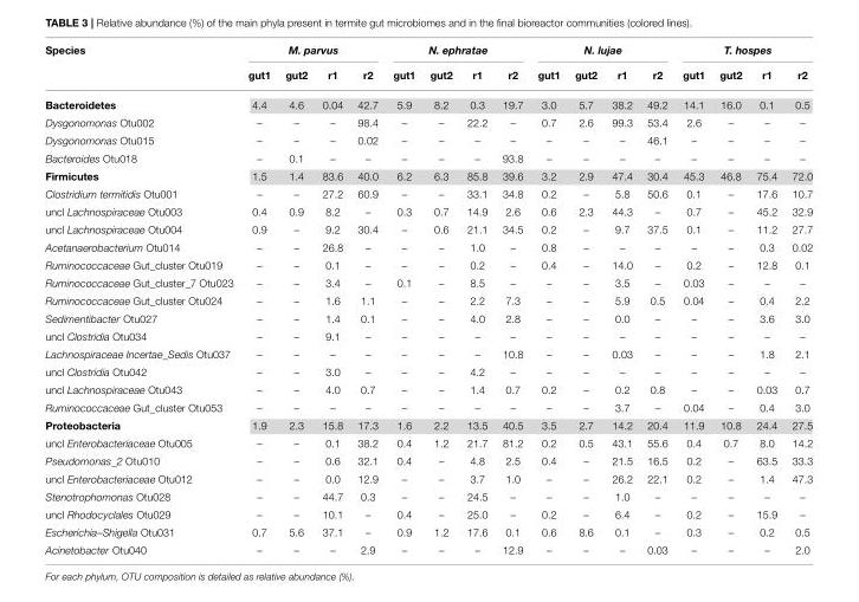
<table><thead><tr><td rowspan="2">Species</td><td colspan="4">M. parvus</td><td colspan="4">N. ephratae</td><td colspan="4">N. lujae</td><td colspan="4">T. hospes</td></tr><tr><td>gut1</td><td>gut2</td><td>r1</td><td>r2</td><td>gut1</td><td>gut2</td><td>r1</td><td>r2</td><td>gut1</td><td>gut2</td><td>r1</td><td>r2</td><td>gut1</td><td>gut2</td><td>r1</td><td>r2</td></tr></thead><tbody><tr><td>Bacteroidetes</td><td>4.4</td><td>4.6</td><td>0.04</td><td>42.7</td><td>5.9</td><td>8.2</td><td>0.3</td><td>19.7</td><td>3.0</td><td>5.7</td><td>38.2</td><td>49.2</td><td>14.1</td><td>16.0</td><td>0.1</td><td>0.5</td></tr><tr><td>Dysgonomonas Otu002</td><td>–</td><td>–</td><td>–</td><td>98.4</td><td>–</td><td>–</td><td>22.2</td><td>–</td><td>0.7</td><td>2.6</td><td>99.3</td><td>53.4</td><td>2.6</td><td>–</td><td>–</td><td>–</td></tr><tr><td>Dysgonomonas Otu015</td><td>–</td><td>–</td><td>–</td><td>0.02</td><td>–</td><td>–</td><td>–</td><td>–</td><td>–</td><td>–</td><td>–</td><td>46.1</td><td>–</td><td>–</td><td>–</td><td>–</td></tr><tr><td>Bacteroides Otu018</td><td>–</td><td>0.1</td><td>–</td><td>–</td><td>–</td><td>–</td><td>–</td><td>93.8</td><td>–</td><td>–</td><td>–</td><td>–</td><td>–</td><td>–</td><td>–</td><td>–</td></tr><tr><td>Firmicutes</td><td>1.5</td><td>1.4</td><td>83.6</td><td>40.0</td><td>6.2</td><td>6.3</td><td>85.8</td><td>39.6</td><td>3.2</td><td>2.9</td><td>47.4</td><td>30.4</td><td>45.3</td><td>46.8</td><td>75.4</td><td>72.0</td></tr><tr><td>Clostridium termitidis Otu001</td><td>–</td><td>–</td><td>27.2</td><td>60.9</td><td>–</td><td>–</td><td>33.1</td><td>34.8</td><td>0.2</td><td>–</td><td>5.8</td><td>50.6</td><td>0.1</td><td>–</td><td>17.6</td><td>10.7</td></tr><tr><td>uncl Lachnospiraceae Otu003</td><td>0.4</td><td>0.9</td><td>8.2</td><td>–</td><td>0.3</td><td>0.7</td><td>14.9</td><td>2.6</td><td>0.6</td><td>2.3</td><td>44.3</td><td>–</td><td>0.7</td><td>–</td><td>45.2</td><td>32.9</td></tr><tr><td>uncl Lachnospiraceae Otu004</td><td>0.9</td><td>–</td><td>9.2</td><td>30.4</td><td>–</td><td>0.6</td><td>21.1</td><td>34.5</td><td>0.2</td><td>–</td><td>9.7</td><td>37.5</td><td>0.1</td><td>–</td><td>11.2</td><td>27.7</td></tr><tr><td>Acetanaerobacterium Otu014</td><td>–</td><td>–</td><td>26.8</td><td>–</td><td>–</td><td>–</td><td>1.0</td><td>–</td><td>0.8</td><td>–</td><td>–</td><td>–</td><td>–</td><td>–</td><td>0.3</td><td>0.02</td></tr><tr><td>Ruminococcaceae Gut_cluster Otu019</td><td>–</td><td>–</td><td>0.1</td><td>–</td><td>–</td><td>–</td><td>0.2</td><td>–</td><td>0.4</td><td>–</td><td>14.0</td><td>–</td><td>0.2</td><td>–</td><td>12.8</td><td>0.1</td></tr><tr><td>Ruminococcaceae Gut_cluster_7 Otu023</td><td>–</td><td>–</td><td>3.4</td><td>–</td><td>0.1</td><td>–</td><td>8.5</td><td>–</td><td>–</td><td>–</td><td>3.5</td><td>–</td><td>0.03</td><td>–</td><td>–</td><td>–</td></tr><tr><td>Ruminococcaceae Gut_cluster Otu024</td><td>–</td><td>–</td><td>1.6</td><td>1.1</td><td>–</td><td>–</td><td>2.2</td><td>7.3</td><td>–</td><td>–</td><td>5.9</td><td>0.5</td><td>0.04</td><td>–</td><td>0.4</td><td>2.2</td></tr><tr><td>Sedimentibacter Otu027</td><td>–</td><td>–</td><td>1.4</td><td>0.1</td><td>–</td><td>–</td><td>4.0</td><td>2.8</td><td>–</td><td>–</td><td>0.0</td><td>–</td><td>–</td><td>–</td><td>3.6</td><td>3.0</td></tr><tr><td>uncl Clostridia Otu034</td><td>–</td><td>–</td><td>9.1</td><td>–</td><td>–</td><td>–</td><td>–</td><td>–</td><td>–</td><td>–</td><td>–</td><td>–</td><td>–</td><td>–</td><td>–</td><td>–</td></tr><tr><td>Lachnospiraceae Incertae_Sedis Otu037</td><td>–</td><td>–</td><td>–</td><td>–</td><td>–</td><td>–</td><td>–</td><td>10.8</td><td>–</td><td>–</td><td>0.03</td><td>–</td><td>–</td><td>–</td><td>1.8</td><td>2.1</td></tr><tr><td>uncl Clostridia Otu042</td><td>–</td><td>–</td><td>3.0</td><td>–</td><td>–</td><td>–</td><td>4.2</td><td>–</td><td>–</td><td>–</td><td>–</td><td>–</td><td>–</td><td>–</td><td>–</td><td>–</td></tr><tr><td>uncl Lachnospiraceae Otu043</td><td>–</td><td>–</td><td>4.0</td><td>0.7</td><td>–</td><td>–</td><td>1.4</td><td>0.7</td><td>0.2</td><td>–</td><td>0.2</td><td>0.8</td><td>–</td><td>–</td><td>0.03</td><td>0.7</td></tr><tr><td>Ruminococcaceae Gut_cluster Otu053</td><td>–</td><td>–</td><td>–</td><td>–</td><td>–</td><td>–</td><td>–</td><td>–</td><td>–</td><td>–</td><td>3.7</td><td>–</td><td>0.04</td><td>–</td><td>0.4</td><td>3.0</td></tr><tr><td>Proteobacteria</td><td>1.9</td><td>2.3</td><td>15.8</td><td>17.3</td><td>1.6</td><td>2.2</td><td>13.5</td><td>40.5</td><td>3.5</td><td>2.7</td><td>14.2</td><td>20.4</td><td>11.9</td><td>10.8</td><td>24.4</td><td>27.5</td></tr><tr><td>uncl Enterobacteriaceae Otu005</td><td>–</td><td>–</td><td>0.1</td><td>38.2</td><td>0.4</td><td>1.2</td><td>21.7</td><td>81.2</td><td>0.2</td><td>0.5</td><td>43.1</td><td>55.6</td><td>0.4</td><td>0.7</td><td>8.0</td><td>14.2</td></tr><tr><td>Pseudomonas_2 Otu010</td><td>–</td><td>–</td><td>0.6</td><td>32.1</td><td>0.4</td><td>–</td><td>4.8</td><td>2.5</td><td>0.4</td><td>–</td><td>21.5</td><td>16.5</td><td>0.2</td><td>–</td><td>63.5</td><td>33.3</td></tr><tr><td>uncl Enterobacteriaceae Otu012</td><td>–</td><td>–</td><td>0.0</td><td>12.9</td><td>–</td><td>–</td><td>3.7</td><td>1.0</td><td>–</td><td>–</td><td>26.2</td><td>22.1</td><td>0.2</td><td>–</td><td>1.4</td><td>47.3</td></tr><tr><td>Stenotrophomonas Otu028</td><td>–</td><td>–</td><td>44.7</td><td>0.3</td><td>–</td><td>–</td><td>24.5</td><td>–</td><td>–</td><td>–</td><td>1.0</td><td>–</td><td>–</td><td>–</td><td>–</td><td>–</td></tr><tr><td>uncl Rhodocyclales Otu029</td><td>–</td><td>–</td><td>10.1</td><td>–</td><td>0.4</td><td>–</td><td>25.0</td><td>–</td><td>0.2</td><td>–</td><td>6.4</td><td>–</td><td>0.2</td><td>–</td><td>15.9</td><td>–</td></tr><tr><td>Escherichia–Shigella Otu031</td><td>0.7</td><td>5.6</td><td>37.1</td><td>–</td><td>0.9</td><td>1.2</td><td>17.6</td><td>0.1</td><td>0.6</td><td>8.6</td><td>0.1</td><td>–</td><td>0.3</td><td>–</td><td>0.2</td><td>0.5</td></tr><tr><td>Acinetobacter Otu040</td><td>–</td><td>–</td><td>–</td><td>2.9</td><td>–</td><td>–</td><td>–</td><td>12.9</td><td>–</td><td>–</td><td>–</td><td>0.03</td><td>–</td><td>–</td><td>–</td><td>2.0</td></tr></tbody></table>